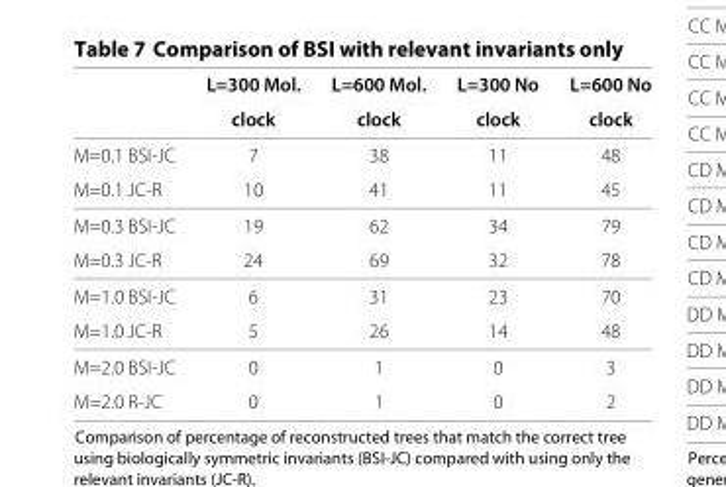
<table><thead><tr><td></td><td>L=300 Mol. clock</td><td>L=600 Mol. clock</td><td>L=300 No clock</td><td>L=600 No clock</td></tr></thead><tbody><tr><td>M=0.1 BSI-JC</td><td>7</td><td>38</td><td>11</td><td>48</td></tr><tr><td>M=0.1 JC-R</td><td>10</td><td>41</td><td>11</td><td>45</td></tr><tr><td>M=0.3 BSI-JC</td><td>19</td><td>62</td><td>34</td><td>79</td></tr><tr><td>M=0.3 JC-R</td><td>24</td><td>69</td><td>32</td><td>78</td></tr><tr><td>M=1.0 BSI-JC</td><td>6</td><td>31</td><td>23</td><td>70</td></tr><tr><td>M=1.0 JC-R</td><td>5</td><td>26</td><td>14</td><td>48</td></tr><tr><td>M=2.0 BSI-JC</td><td>0</td><td>1</td><td>0</td><td>3</td></tr><tr><td>M=2.0 R-JC</td><td>0</td><td>1</td><td>0</td><td>2</td></tr></tbody></table>